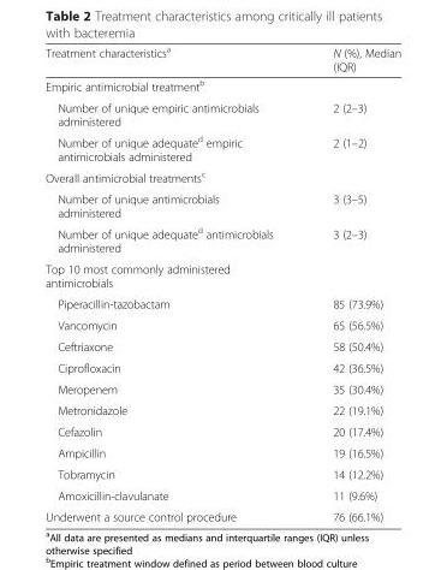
<table><thead><tr><td>Treatment characteristics<sup>a</sup></td><td>N (%), Median (IQR)</td></tr></thead><tbody><tr><td colspan="2">Empiric antimicrobial treatment<sup>b</sup></td></tr><tr><td>Number of unique empiric antimicrobials administered</td><td>2 (2–3)</td></tr><tr><td>Number of unique adequate<sup>d</sup> empiric antimicrobials administered</td><td>2 (1–2)</td></tr><tr><td colspan="2">Overall antimicrobial treatments<sup>c</sup></td></tr><tr><td>Number of unique antimicrobials administered</td><td>3 (3–5)</td></tr><tr><td>Number of unique adequate<sup>d</sup> antimicrobials administered</td><td>3 (2–3)</td></tr><tr><td colspan="2">Top 10 most commonly administered antimicrobials</td></tr><tr><td>Piperacillin-tazobactam</td><td>85 (73.9%)</td></tr><tr><td>Vancomycin</td><td>65 (56.5%)</td></tr><tr><td>Ceftriaxone</td><td>58 (50.4%)</td></tr><tr><td>Ciprofloxacin</td><td>42 (36.5%)</td></tr><tr><td>Meropenem</td><td>35 (30.4%)</td></tr><tr><td>Metronidazole</td><td>22 (19.1%)</td></tr><tr><td>Cefazolin</td><td>20 (17.4%)</td></tr><tr><td>Ampicillin</td><td>19 (16.5%)</td></tr><tr><td>Tobramycin</td><td>14 (12.2%)</td></tr><tr><td>Amoxicillin-clavulanate</td><td>11 (9.6%)</td></tr><tr><td>Underwent a source control procedure</td><td>76 (66.1%)</td></tr></tbody></table>